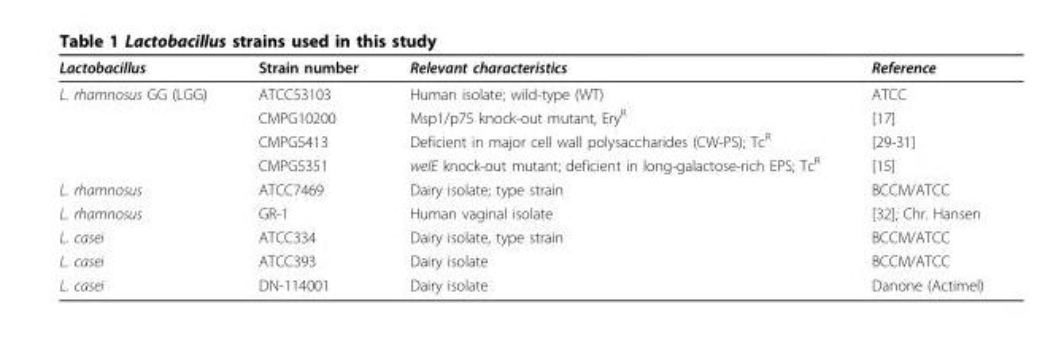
<table><thead><tr><td>Lactobacillus</td><td>Strain number</td><td>Relevant characteristics</td><td>Reference</td></tr></thead><tbody><tr><td rowspan="4">L. rhamnosus GG (LGG)</td><td>ATCC53103</td><td>Human isolate; wild-type (WT)</td><td>ATCC</td></tr><tr><td>CMPG10200</td><td>Msp1/p75 knock-out mutant, Ery<sup>R</sup></td><td>[17]</td></tr><tr><td>CMPG5413</td><td>Deficient in major cell wall polysaccharides (CW-PS); Tc<sup>R</sup></td><td>[29-31]</td></tr><tr><td>CMPG5351</td><td>welE knock-out mutant; deficient in long-galactose-rich EPS; Tc<sup>R</sup></td><td>[15]</td></tr><tr><td>L. rhamnosus</td><td>ATCC7469</td><td>Dairy isolate; type strain</td><td>BCCM/ATCC</td></tr><tr><td>L. rhamnosus</td><td>GR-1</td><td>Human vaginal isolate</td><td>[32]; Chr. Hansen</td></tr><tr><td>L. casei</td><td>ATCC334</td><td>Dairy isolate, type strain</td><td>BCCM/ATCC</td></tr><tr><td>L. casei</td><td>ATCC393</td><td>Dairy isolate</td><td>BCCM/ATCC</td></tr><tr><td>L. casei</td><td>DN-114001</td><td>Dairy isolate</td><td>Danone (Actimel)</td></tr></tbody></table>